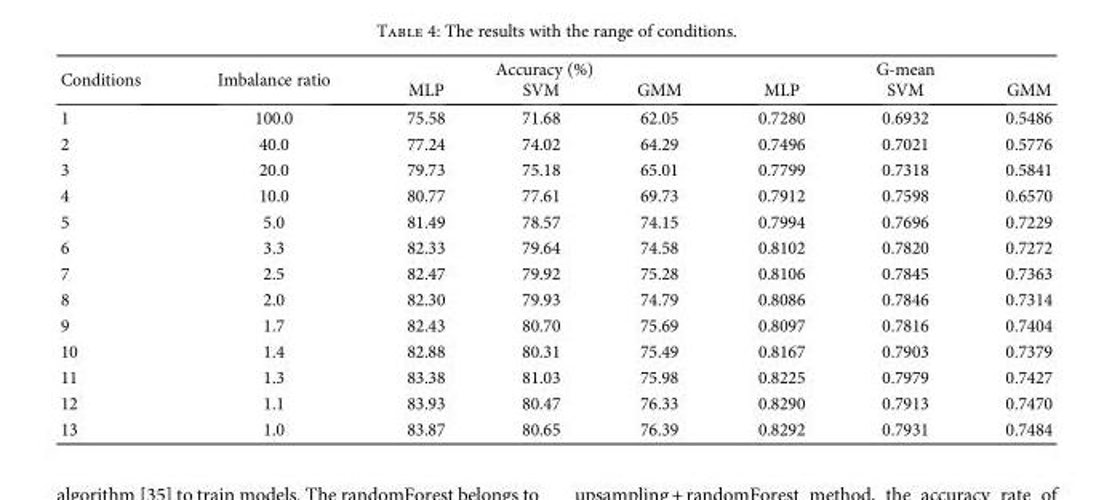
<table><thead><tr><td rowspan="2">Conditions</td><td rowspan="2">Imbalance ratio</td><td colspan="3">Accuracy (%)</td><td colspan="3">G-mean</td></tr><tr><td>MLP</td><td>SVM</td><td>GMM</td><td>MLP</td><td>SVM</td><td>GMM</td></tr></thead><tbody><tr><td>1</td><td>100.0</td><td>75.58</td><td>71.68</td><td>62.05</td><td>0.7280</td><td>0.6932</td><td>0.5486</td></tr><tr><td>2</td><td>40.0</td><td>77.24</td><td>74.02</td><td>64.29</td><td>0.7496</td><td>0.7021</td><td>0.5776</td></tr><tr><td>3</td><td>20.0</td><td>79.73</td><td>75.18</td><td>65.01</td><td>0.7799</td><td>0.7318</td><td>0.5841</td></tr><tr><td>4</td><td>10.0</td><td>80.77</td><td>77.61</td><td>69.73</td><td>0.7912</td><td>0.7598</td><td>0.6570</td></tr><tr><td>5</td><td>5.0</td><td>81.49</td><td>78.57</td><td>74.15</td><td>0.7994</td><td>0.7696</td><td>0.7229</td></tr><tr><td>6</td><td>3.3</td><td>82.33</td><td>79.64</td><td>74.58</td><td>0.8102</td><td>0.7820</td><td>0.7272</td></tr><tr><td>7</td><td>2.5</td><td>82.47</td><td>79.92</td><td>75.28</td><td>0.8106</td><td>0.7845</td><td>0.7363</td></tr><tr><td>8</td><td>2.0</td><td>82.30</td><td>79.93</td><td>74.79</td><td>0.8086</td><td>0.7846</td><td>0.7314</td></tr><tr><td>9</td><td>1.7</td><td>82.43</td><td>80.70</td><td>75.69</td><td>0.8097</td><td>0.7816</td><td>0.7404</td></tr><tr><td>10</td><td>1.4</td><td>82.88</td><td>80.31</td><td>75.49</td><td>0.8167</td><td>0.7903</td><td>0.7379</td></tr><tr><td>11</td><td>1.3</td><td>83.38</td><td>81.03</td><td>75.98</td><td>0.8225</td><td>0.7979</td><td>0.7427</td></tr><tr><td>12</td><td>1.1</td><td>83.93</td><td>80.47</td><td>76.33</td><td>0.8290</td><td>0.7913</td><td>0.7470</td></tr><tr><td>13</td><td>1.0</td><td>83.87</td><td>80.65</td><td>76.39</td><td>0.8292</td><td>0.7931</td><td>0.7484</td></tr></tbody></table>